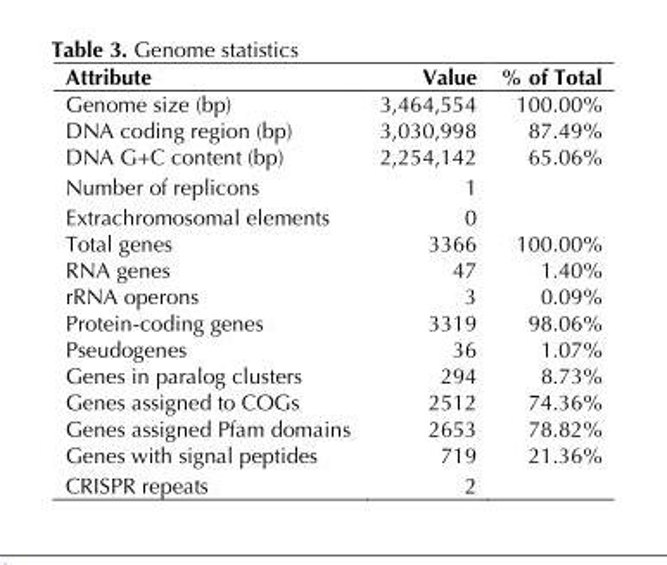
<table><thead><tr><td>Attribute</td><td>Value</td><td>% of Total</td></tr></thead><tbody><tr><td>Genome size (bp)</td><td>3,464,554</td><td>100.00%</td></tr><tr><td>DNA coding region (bp)</td><td>3,030,998</td><td>87.49%</td></tr><tr><td>DNA G+C content (bp)</td><td>2,254,142</td><td>65.06%</td></tr><tr><td>Number of replicons</td><td>1</td><td></td></tr><tr><td>Extrachromosomal elements</td><td>0</td><td></td></tr><tr><td>Total genes</td><td>3366</td><td>100.00%</td></tr><tr><td>RNA genes</td><td>47</td><td>1.40%</td></tr><tr><td>rRNA operons</td><td>3</td><td>0.09%</td></tr><tr><td>Protein-coding genes</td><td>3319</td><td>98.06%</td></tr><tr><td>Pseudogenes</td><td>36</td><td>1.07%</td></tr><tr><td>Genes in paralog clusters</td><td>294</td><td>8.73%</td></tr><tr><td>Genes assigned to COGs</td><td>2512</td><td>74.36%</td></tr><tr><td>Genes assigned Pfam domains</td><td>2653</td><td>78.82%</td></tr><tr><td>Genes with signal peptides</td><td>719</td><td>21.36%</td></tr><tr><td>CRISPR repeats</td><td>2</td><td></td></tr></tbody></table>